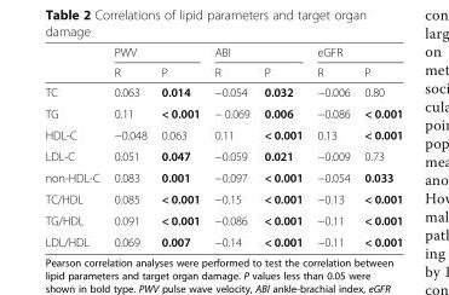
<table><thead><tr><td rowspan="2"></td><td colspan="2">PWV</td><td colspan="2">ABI</td><td colspan="2">eGFR</td></tr><tr><td>R</td><td>P</td><td>R</td><td>P</td><td>R</td><td>P</td></tr></thead><tbody><tr><td>TC</td><td>0.063</td><td>0.014</td><td>−0.054</td><td>0.032</td><td>−0.006</td><td>0.80</td></tr><tr><td>TG</td><td>0.11</td><td>&lt; 0.001</td><td>− 0.069</td><td>0.006</td><td>−0.086</td><td>&lt; 0.001</td></tr><tr><td>HDL-C</td><td>−0.048</td><td>0.063</td><td>0.11</td><td>&lt; 0.001</td><td>0.13</td><td>&lt; 0.001</td></tr><tr><td>LDL-C</td><td>0.051</td><td>0.047</td><td>−0.059</td><td>0.021</td><td>−0.009</td><td>0.73</td></tr><tr><td>non-HDL-C</td><td>0.083</td><td>0.001</td><td>−0.097</td><td>&lt; 0.001</td><td>−0.054</td><td>0.033</td></tr><tr><td>TC/HDL</td><td>0.085</td><td>&lt; 0.001</td><td>−0.15</td><td>&lt; 0.001</td><td>−0.13</td><td>&lt; 0.001</td></tr><tr><td>TG/HDL</td><td>0.091</td><td>&lt; 0.001</td><td>−0.086</td><td>&lt; 0.001</td><td>−0.11</td><td>&lt; 0.001</td></tr><tr><td>LDL/HDL</td><td>0.069</td><td>0.007</td><td>−0.14</td><td>&lt; 0.001</td><td>−0.11</td><td>&lt; 0.001</td></tr></tbody></table>